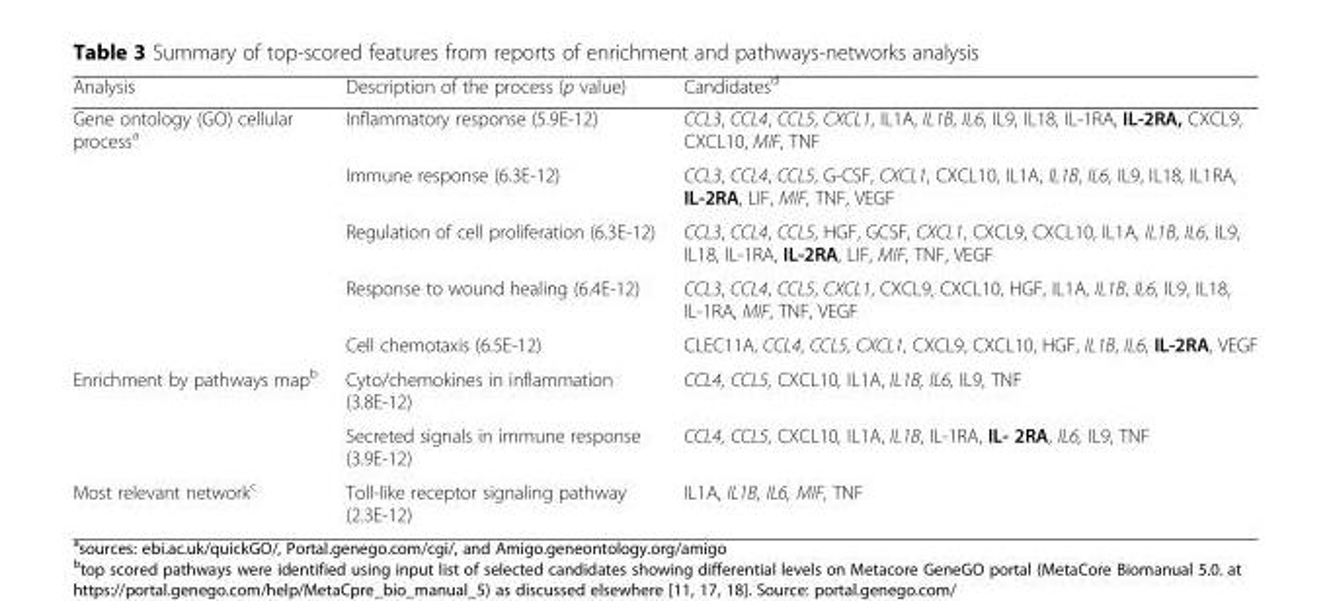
<table><thead><tr><td>Analysis</td><td>Description of the process (p value)</td><td>Candidates<sup>d</sup></td></tr></thead><tbody><tr><td rowspan="5">Gene ontology (GO) cellular process<sup>a</sup></td><td>Inflammatory response (5.9E-12)</td><td>CCL3, CCL4, CCL5, CXCL1, IL1A, IL1B, IL6, IL9, IL18, IL-1RA, IL-2RA, CXCL9, CXCL10, MIF, TNF</td></tr><tr><td>Immune response (6.3E-12)</td><td>CCL3, CCL4, CCL5, G-CSF, CXCL1, CXCL10, IL1A, IL1B, IL6, IL9, IL18, IL1RA, IL-2RA, LIF, MIF, TNF, VEGF</td></tr><tr><td>Regulation of cell proliferation (6.3E-12)</td><td>CCL3, CCL4, CCL5, HGF, GCSF, CXCL1, CXCL9, CXCL10, IL1A, IL1B, IL6, IL9, IL18, IL-1RA, IL-2RA, LIF, MIF, TNF, VEGF</td></tr><tr><td>Response to wound healing (6.4E-12)</td><td>CCL3, CCL4, CCL5, CXCL1, CXCL9, CXCL10, HGF, IL1A, IL1B, IL6, IL9, IL18, IL-1RA, MIF, TNF, VEGF</td></tr><tr><td>Cell chemotaxis (6.5E-12)</td><td>CLEC11A, CCL4, CCL5, CXCL1, CXCL9, CXCL10, HGF, IL1B, IL6, IL-2RA, VEGF</td></tr><tr><td rowspan="2">Enrichment by pathways map<sup>b</sup></td><td>Cyto/chemokines in inflammation (3.8E-12)</td><td>CCL4, CCL5, CXCL10, IL1A, IL1B, IL6, IL9, TNF</td></tr><tr><td>Secreted signals in immune response (3.9E-12)</td><td>CCL4, CCL5, CXCL10, IL1A, IL1B, IL-1RA, IL- 2RA, IL6, IL9, TNF</td></tr><tr><td>Most relevant network<sup>c</sup></td><td>Toll-like receptor signaling pathway (2.3E-12)</td><td>IL1A, IL1B, ΙL6, MIF, TNF</td></tr></tbody></table>